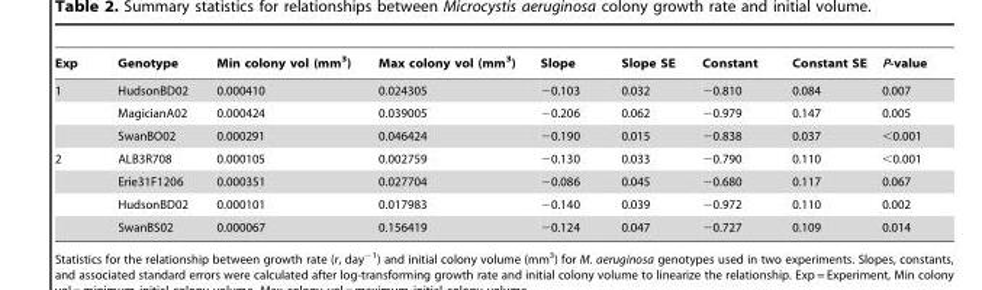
<table><thead><tr><td>Exp</td><td>Genotype</td><td>Min colony vol (mm<sup>3</sup>)</td><td>Max colony vol (mm<sup>3</sup>)</td><td>Slope</td><td>Slope SE</td><td>Constant</td><td>Constant SE</td><td>P-value</td></tr></thead><tbody><tr><td rowspan="3">1</td><td>HudsonBD02</td><td>0.000410</td><td>0.024305</td><td>−0.103</td><td>0.032</td><td>−0.810</td><td>0.084</td><td>0.007</td></tr><tr><td>MagicianA02</td><td>0.000424</td><td>0.039005</td><td>−0.206</td><td>0.062</td><td>−0.979</td><td>0.147</td><td>0.005</td></tr><tr><td>SwanBO02</td><td>0.000291</td><td>0.046424</td><td>−0.190</td><td>0.015</td><td>−0.838</td><td>0.037</td><td>&lt;0.001</td></tr><tr><td rowspan="4">2</td><td>ALB3R708</td><td>0.000105</td><td>0.002759</td><td>−0.130</td><td>0.033</td><td>−0.790</td><td>0.110</td><td>&lt;0.001</td></tr><tr><td>Erie31F1206</td><td>0.000351</td><td>0.027704</td><td>−0.086</td><td>0.045</td><td>−0.680</td><td>0.117</td><td>0.067</td></tr><tr><td>HudsonBD02</td><td>0.000101</td><td>0.017983</td><td>−0.140</td><td>0.039</td><td>−0.972</td><td>0.110</td><td>0.002</td></tr><tr><td>SwanBS02</td><td>0.000067</td><td>0.156419</td><td>−0.124</td><td>0.047</td><td>−0.727</td><td>0.109</td><td>0.014</td></tr></tbody></table>